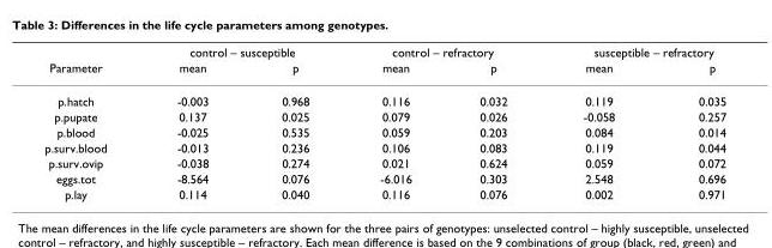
<table><thead><tr><td rowspan="2">Parameter</td><td colspan="2">control – susceptible</td><td colspan="2">control – refractory</td><td colspan="2">susceptible – refractory</td></tr><tr><td>mean</td><td>p</td><td>mean</td><td>p</td><td>mean</td><td>p</td></tr></thead><tbody><tr><td>p.hatch</td><td>-0.003</td><td>0.968</td><td>0.116</td><td>0.032</td><td>0.119</td><td>0.035</td></tr><tr><td>p.pupate</td><td>0.137</td><td>0.025</td><td>0.079</td><td>0.026</td><td>-0.058</td><td>0.257</td></tr><tr><td>p.blood</td><td>-0.025</td><td>0.535</td><td>0.059</td><td>0.203</td><td>0.084</td><td>0.014</td></tr><tr><td>p.surv.blood</td><td>-0.013</td><td>0.236</td><td>0.106</td><td>0.083</td><td>0.119</td><td>0.044</td></tr><tr><td>p.surv.ovip</td><td>-0.038</td><td>0.274</td><td>0.021</td><td>0.624</td><td>0.059</td><td>0.072</td></tr><tr><td>eggs.tot</td><td>-8.564</td><td>0.076</td><td>-6.016</td><td>0.303</td><td>2.548</td><td>0.696</td></tr><tr><td>p.lay</td><td>0.114</td><td>0.040</td><td>0.116</td><td>0.076</td><td>0.002</td><td>0.971</td></tr></tbody></table>